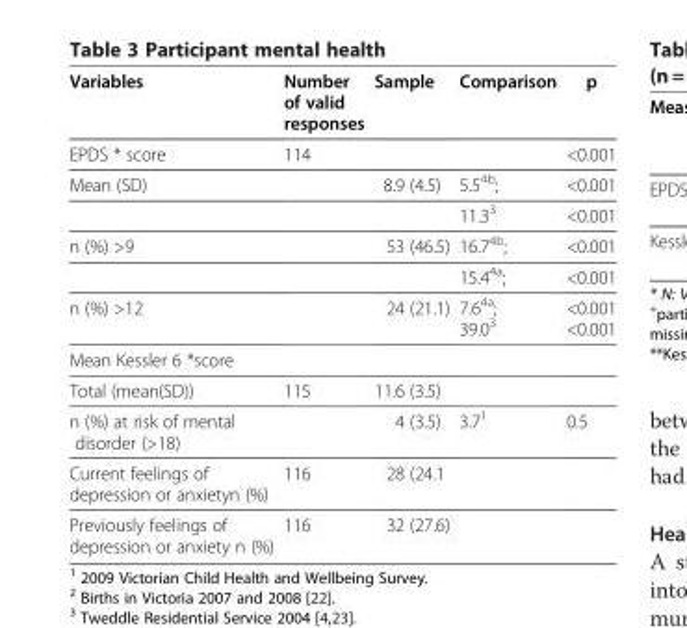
<table><thead><tr><td>Variables</td><td>Number of valid responses</td><td>Sample</td><td>Comparison</td><td>p</td></tr></thead><tbody><tr><td>EPDS * score</td><td>114</td><td></td><td></td><td>&lt;0.001</td></tr><tr><td rowspan="2">Mean (SD)</td><td></td><td>8.9 (4.5)</td><td>5.5<sup>4b</sup>;</td><td>&lt;0.001</td></tr><tr><td></td><td></td><td>11.3<sup>3</sup></td><td>&lt;0.001</td></tr><tr><td rowspan="2">n (%) &gt;9</td><td></td><td>53 (46.5)</td><td>16.7<sup>4b</sup>;</td><td>&lt;0.001</td></tr><tr><td></td><td></td><td>15.4<sup>4a</sup>;</td><td>&lt;0.001</td></tr><tr><td>n (%) &gt;12</td><td></td><td>24 (21.1)</td><td>7.6<sup>4a</sup>; 39.0<sup>3</sup></td><td>&lt;0.001 &lt;0.001</td></tr><tr><td colspan="5">Mean Kessler 6 *score</td></tr><tr><td>Total (mean(SD))</td><td>115</td><td>11.6 (3.5)</td><td></td><td></td></tr><tr><td>n (%) at risk of mental disorder (&gt;18)</td><td></td><td>4 (3.5)</td><td>3.7<sup>1</sup></td><td>0.5</td></tr><tr><td>Current feelings of depression or anxietyn (%)</td><td>116</td><td>28 (24.1</td><td></td><td></td></tr><tr><td>Previously feelings of depression or anxiety n (%)</td><td>116</td><td>32 (27.6)</td><td></td><td></td></tr></tbody></table>